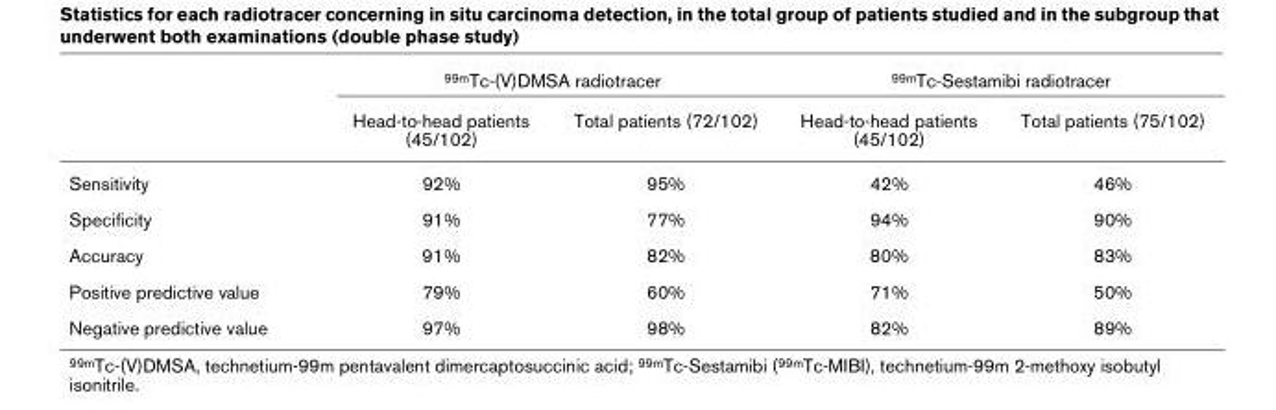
<table><thead><tr><td rowspan="2"></td><td colspan="2">99mTc-(V)DMSA radiotracer</td><td colspan="2">99mTc-Sestamibi radiotracer</td></tr><tr><td>Head-to-head patients (45/102)</td><td>Total patients (72/102)</td><td>Head-to-head patients (45/102)</td><td>Total patients (75/102)</td></tr></thead><tbody><tr><td>Sensitivity</td><td>92%</td><td>95%</td><td>42%</td><td>46%</td></tr><tr><td>Specificity</td><td>91%</td><td>77%</td><td>94%</td><td>90%</td></tr><tr><td>Accuracy</td><td>91%</td><td>82%</td><td>80%</td><td>83%</td></tr><tr><td>Positive predictive value</td><td>79%</td><td>60%</td><td>71%</td><td>50%</td></tr><tr><td>Negative predictive value</td><td>97%</td><td>98%</td><td>82%</td><td>89%</td></tr></tbody></table>